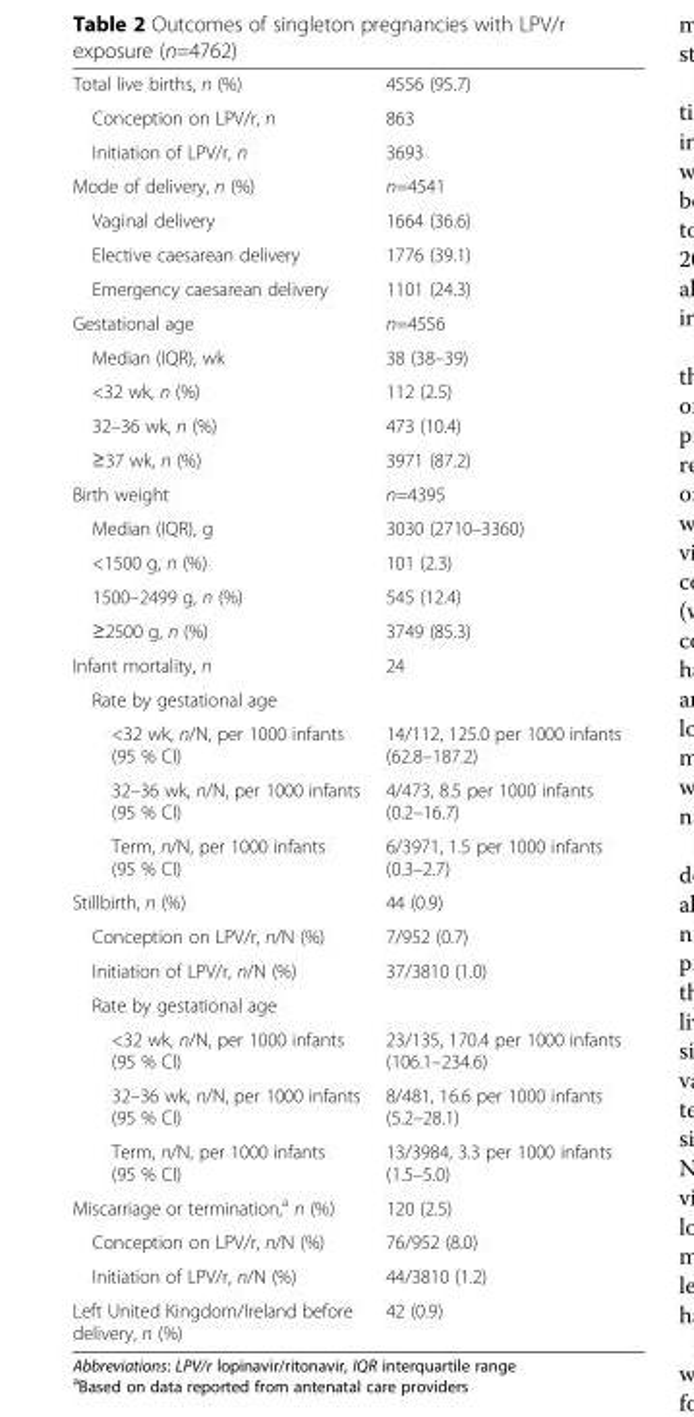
<table><tbody><tr><td>Total live births, n (%)</td><td>4556 (95.7)</td></tr><tr><td>Conception on LPV/r, n</td><td>863</td></tr><tr><td>Initiation of LPV/r, n</td><td>3693</td></tr><tr><td>Mode of delivery, n (%)</td><td>n=4541</td></tr><tr><td>Vaginal delivery</td><td>1664 (36.6)</td></tr><tr><td>Elective caesarean delivery</td><td>1776 (39.1)</td></tr><tr><td>Emergency caesarean delivery</td><td>1101 (24.3)</td></tr><tr><td>Gestational age</td><td>n=4556</td></tr><tr><td>Median (IQR), wk</td><td>38 (38–39)</td></tr><tr><td>&lt;32 wk, n (%)</td><td>112 (2.5)</td></tr><tr><td>32–36 wk, n (%)</td><td>473 (10.4)</td></tr><tr><td>≥37 wk, n (%)</td><td>3971 (87.2)</td></tr><tr><td>Birth weight</td><td>n=4395</td></tr><tr><td>Median (IQR), g</td><td>3030 (2710–3360)</td></tr><tr><td>&lt;1500 g, n (%)</td><td>101 (2.3)</td></tr><tr><td>1500–2499 g, n (%)</td><td>545 (12.4)</td></tr><tr><td>≥2500 g, n (%)</td><td>3749 (85.3)</td></tr><tr><td>Infant mortality, n</td><td>24</td></tr><tr><td colspan="2">Rate by gestational age</td></tr><tr><td>&lt;32 wk, n/N, per 1000 infants (95 % CI)</td><td>14/112, 125.0 per 1000 infants (62.8–187.2)</td></tr><tr><td>32–36 wk, n/N, per 1000 infants (95 % CI)</td><td>4/473, 8.5 per 1000 infants (0.2–16.7)</td></tr><tr><td>Term, n/N, per 1000 infants (95 % CI)</td><td>6/3971, 1.5 per 1000 infants (0.3–2.7)</td></tr><tr><td>Stillbirth, n (%)</td><td>44 (0.9)</td></tr><tr><td>Conception on LPV/r, n/N (%)</td><td>7/952 (0.7)</td></tr><tr><td>Initiation of LPV/r, n/N (%)</td><td>37/3810 (1.0)</td></tr><tr><td colspan="2">Rate by gestational age</td></tr><tr><td>&lt;32 wk, n/N, per 1000 infants (95 % CI)</td><td>23/135, 170.4 per 1000 infants (106.1–234.6)</td></tr><tr><td>32–36 wk, n/N, per 1000 infants (95 % CI)</td><td>8/481, 16.6 per 1000 infants (5.2–28.1)</td></tr><tr><td>Term, n/N, per 1000 infants (95 % CI)</td><td>13/3984, 3.3 per 1000 infants (1.5–5.0)</td></tr><tr><td>Miscarriage or termination,<sup>a</sup> n (%)</td><td>120 (2.5)</td></tr><tr><td>Conception on LPV/r, n/N (%)</td><td>76/952 (8.0)</td></tr><tr><td>Initiation of LPV/r, n/N (%)</td><td>44/3810 (1.2)</td></tr><tr><td>Left United Kingdom/Ireland before delivery, n (%)</td><td>42 (0.9)</td></tr></tbody></table>